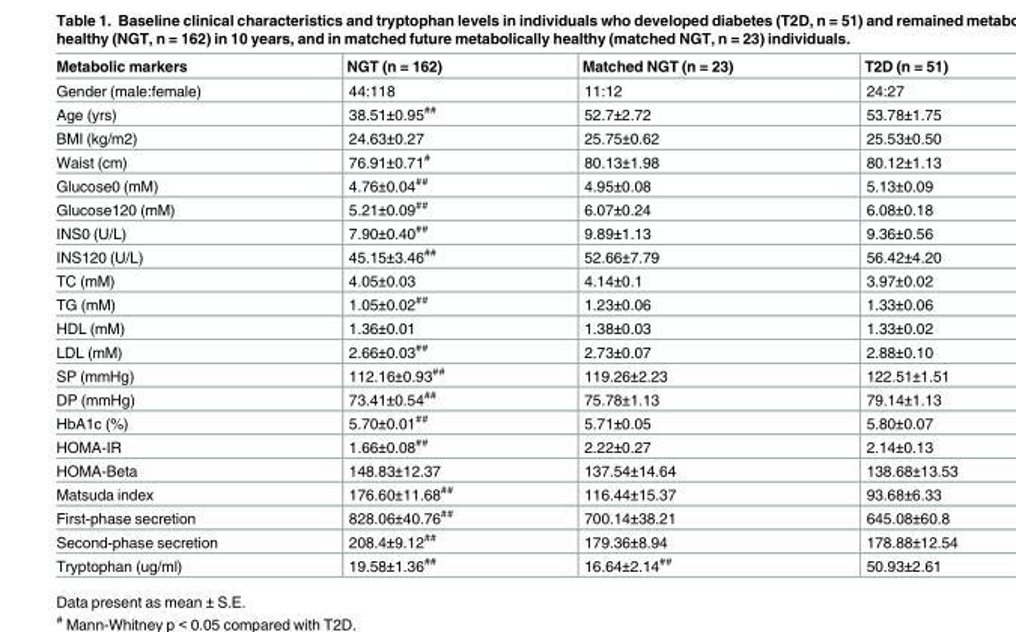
<table><thead><tr><td>Metabolic markers</td><td>NGT (n = 162)</td><td>Matched NGT (n = 23)</td><td>T2D (n = 51)</td></tr></thead><tbody><tr><td>Gender (male:female)</td><td>44:118</td><td>11:12</td><td>24:27</td></tr><tr><td>Age (yrs)</td><td>38.51±0.95<sup>##</sup></td><td>52.7±2.72</td><td>53.78±1.75</td></tr><tr><td>BMI (kg/m2)</td><td>24.63±0.27</td><td>25.75±0.62</td><td>25.53±0.50</td></tr><tr><td>Waist (cm)</td><td>76.91±0.71<sup>#</sup></td><td>80.13±1.98</td><td>80.12±1.13</td></tr><tr><td>Glucose0 (mM)</td><td>4.76±0.04<sup>##</sup></td><td>4.95±0.08</td><td>5.13±0.09</td></tr><tr><td>Glucose120 (mM)</td><td>5.21±0.09<sup>##</sup></td><td>6.07±0.24</td><td>6.08±0.18</td></tr><tr><td>INS0 (U/L)</td><td>7.90±0.40<sup>##</sup></td><td>9.89±1.13</td><td>9.36±0.56</td></tr><tr><td>INS120 (U/L)</td><td>45.15±3.46<sup>##</sup></td><td>52.66±7.79</td><td>56.42±4.20</td></tr><tr><td>TC (mM)</td><td>4.05±0.03</td><td>4.14±0.1</td><td>3.97±0.02</td></tr><tr><td>TG (mM)</td><td>1.05±0.02<sup>##</sup></td><td>1.23±0.06</td><td>1.33±0.06</td></tr><tr><td>HDL (mM)</td><td>1.36±0.01</td><td>1.38±0.03</td><td>1.33±0.02</td></tr><tr><td>LDL (mM)</td><td>2.66±0.03<sup>##</sup></td><td>2.73±0.07</td><td>2.88±0.10</td></tr><tr><td>SP (mmHg)</td><td>112.16±0.93<sup>##</sup></td><td>119.26±2.23</td><td>122.51±1.51</td></tr><tr><td>DP (mmHg)</td><td>73.41±0.54<sup>##</sup></td><td>75.78±1.13</td><td>79.14±1.13</td></tr><tr><td>HbA1c (%)</td><td>5.70±0.01<sup>##</sup></td><td>5.71±0.05</td><td>5.80±0.07</td></tr><tr><td>HOMA-IR</td><td>1.66±0.08<sup>##</sup></td><td>2.22±0.27</td><td>2.14±0.13</td></tr><tr><td>HOMA-Beta</td><td>148.83±12.37</td><td>137.54±14.64</td><td>138.68±13.53</td></tr><tr><td>Matsuda index</td><td>176.60±11.68<sup>##</sup></td><td>116.44±15.37</td><td>93.68±6.33</td></tr><tr><td>First-phase secretion</td><td>828.06±40.76<sup>##</sup></td><td>700.14±38.21</td><td>645.08±60.8</td></tr><tr><td>Second-phase secretion</td><td>208.4±9.12<sup>##</sup></td><td>179.36±8.94</td><td>178.88±12.54</td></tr><tr><td>Tryptophan (ug/ml)</td><td>19.58±1.36<sup>##</sup></td><td>16.64±2.14<sup>##</sup></td><td>50.93±2.61</td></tr></tbody></table>